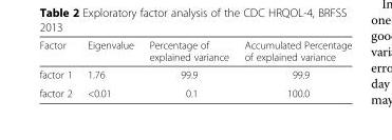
<table><thead><tr><td>Factor</td><td>Eigenvalue</td><td>Percentage of explained variance</td><td>Accumulated Percentage of explained variance</td></tr></thead><tbody><tr><td>factor 1</td><td>1.76</td><td>99.9</td><td>99.9</td></tr><tr><td>factor 2</td><td>&lt;0.01</td><td>0.1</td><td>100.0</td></tr></tbody></table>